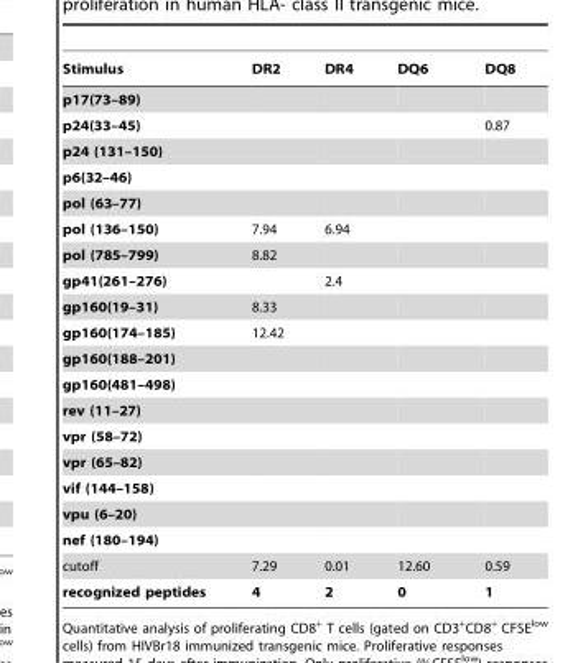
<table><thead><tr><td>Stimulus</td><td>DR2</td><td>DR4</td><td>DQ6</td><td>DQ8</td></tr></thead><tbody><tr><td colspan="5">p17(73–89)</td></tr><tr><td>p24(33–45)</td><td></td><td></td><td></td><td>0.87</td></tr><tr><td colspan="5">p24 (131–150)</td></tr><tr><td colspan="5">p6(32–46)</td></tr><tr><td colspan="5">pol (63–77)</td></tr><tr><td>pol (136–150)</td><td>7.94</td><td>6.94</td><td></td><td></td></tr><tr><td>pol (785–799)</td><td>8.82</td><td></td><td></td><td></td></tr><tr><td>gp41(261–276)</td><td></td><td>2.4</td><td></td><td></td></tr><tr><td>gp160(19–31)</td><td>8.33</td><td></td><td></td><td></td></tr><tr><td>gp160(174–185)</td><td>12.42</td><td></td><td></td><td></td></tr><tr><td colspan="5">gp160(188–201)</td></tr><tr><td colspan="5">gp160(481–498)</td></tr><tr><td colspan="5">rev (11–27)</td></tr><tr><td colspan="5">vpr (58–72)</td></tr><tr><td colspan="5">vpr (65–82)</td></tr><tr><td colspan="5">vif (144–158)</td></tr><tr><td colspan="5">vpu (6–20)</td></tr><tr><td colspan="5">nef (180–194)</td></tr><tr><td>cutoff</td><td>7.29</td><td>0.01</td><td>12.60</td><td>0.59</td></tr><tr><td>recognized peptides</td><td>4</td><td>2</td><td>0</td><td>1</td></tr></tbody></table>